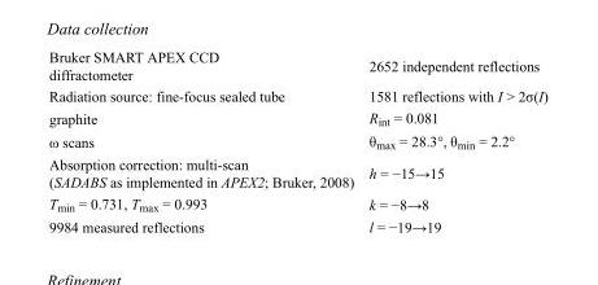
<table><tbody><tr><td>Bruker SMART APEX CCD diffractometer</td><td>2652 independent reflections</td></tr><tr><td>Radiation source: fine-focus sealed tube</td><td>1581 reflections with I &gt; 2σ(I)</td></tr><tr><td>graphite</td><td>R<sub>int</sub> = 0.081</td></tr><tr><td>ω scans</td><td>θ<sub>max</sub> = 28.3°, θ<sub>min</sub> = 2.2°</td></tr><tr><td>Absorption correction: multi-scan (SADABS as implemented in APEX2; Bruker, 2008)</td><td>h = −15→15</td></tr><tr><td>T<sub>min</sub> = 0.731, T<sub>max</sub> = 0.993</td><td>k = −8→8</td></tr><tr><td>9984 measured reflections</td><td>l = −19→19</td></tr></tbody></table>